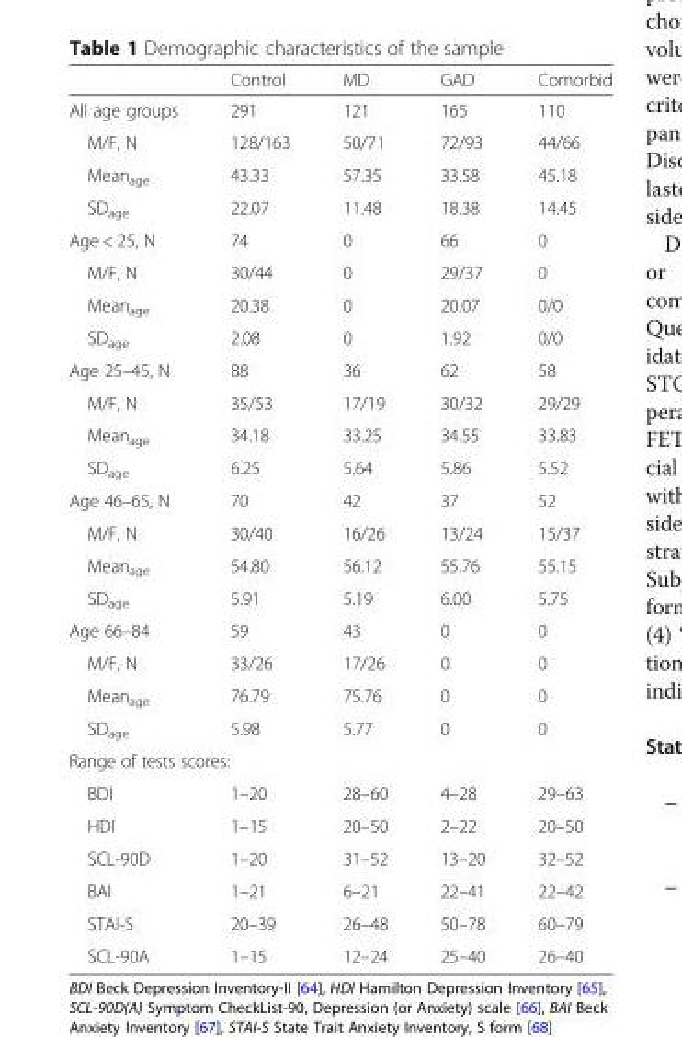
<table><thead><tr><td></td><td>Control</td><td>MD</td><td>GAD</td><td>Comorbid</td></tr></thead><tbody><tr><td>All age groups</td><td>291</td><td>121</td><td>165</td><td>110</td></tr><tr><td>M/F, N</td><td>128/163</td><td>50/71</td><td>72/93</td><td>44/66</td></tr><tr><td>Mean<sub>age</sub></td><td>43.33</td><td>57.35</td><td>33.58</td><td>45.18</td></tr><tr><td>SD<sub>age</sub></td><td>22.07</td><td>11.48</td><td>18.38</td><td>14.45</td></tr><tr><td>Age &lt; 25, N</td><td>74</td><td>0</td><td>66</td><td>0</td></tr><tr><td>M/F, N</td><td>30/44</td><td>0</td><td>29/37</td><td>0</td></tr><tr><td>Mean<sub>age</sub></td><td>20.38</td><td>0</td><td>20.07</td><td>0/0</td></tr><tr><td>SD<sub>age</sub></td><td>2.08</td><td>0</td><td>1.92</td><td>0/0</td></tr><tr><td>Age 25–45, N</td><td>88</td><td>36</td><td>62</td><td>58</td></tr><tr><td>M/F, N</td><td>35/53</td><td>17/19</td><td>30/32</td><td>29/29</td></tr><tr><td>Mean<sub>age</sub></td><td>34.18</td><td>33.25</td><td>34.55</td><td>33.83</td></tr><tr><td>SD<sub>age</sub></td><td>6.25</td><td>5.64</td><td>5.86</td><td>5.52</td></tr><tr><td>Age 46–65, N</td><td>70</td><td>42</td><td>37</td><td>52</td></tr><tr><td>M/F, N</td><td>30/40</td><td>16/26</td><td>13/24</td><td>15/37</td></tr><tr><td>Mean<sub>age</sub></td><td>54.80</td><td>56.12</td><td>55.76</td><td>55.15</td></tr><tr><td>SD<sub>age</sub></td><td>5.91</td><td>5.19</td><td>6.00</td><td>5.75</td></tr><tr><td>Age 66–84</td><td>59</td><td>43</td><td>0</td><td>0</td></tr><tr><td>M/F, N</td><td>33/26</td><td>17/26</td><td>0</td><td>0</td></tr><tr><td>Mean<sub>age</sub></td><td>76.79</td><td>75.76</td><td>0</td><td>0</td></tr><tr><td>SD<sub>age</sub></td><td>5.98</td><td>5.77</td><td>0</td><td>0</td></tr><tr><td colspan="5">Range of tests scores:</td></tr><tr><td>BDI</td><td>1–20</td><td>28–60</td><td>4–28</td><td>29–63</td></tr><tr><td>HDI</td><td>1–15</td><td>20–50</td><td>2–22</td><td>20–50</td></tr><tr><td>SCL-90D</td><td>1–20</td><td>31–52</td><td>13–20</td><td>32–52</td></tr><tr><td>BAI</td><td>1–21</td><td>6–21</td><td>22–41</td><td>22–42</td></tr><tr><td>STAI-S</td><td>20–39</td><td>26–48</td><td>50–78</td><td>60–79</td></tr><tr><td>SCL-90A</td><td>1–15</td><td>12–24</td><td>25–40</td><td>26–40</td></tr></tbody></table>